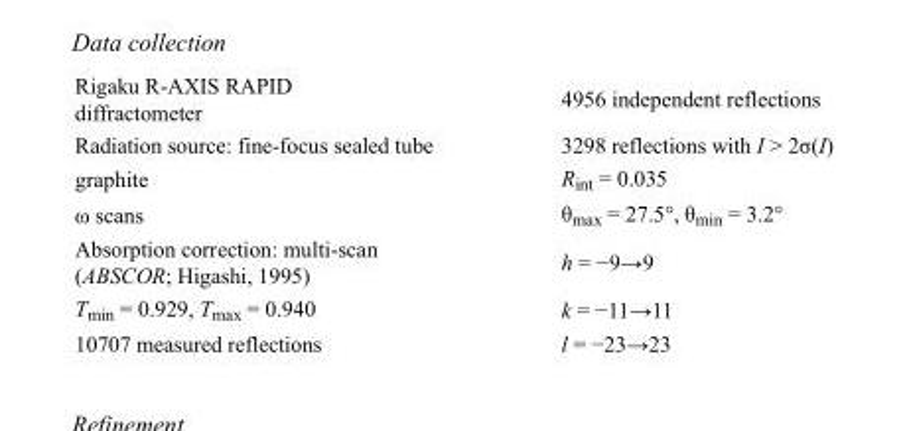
<table><tbody><tr><td>Rigaku R-AXIS RAPID diffractometer</td><td>4956 independent reflections</td></tr><tr><td>Radiation source: fine-focus sealed tube</td><td>3298 reflections with I &gt; 2σ(I)</td></tr><tr><td>graphite</td><td>R<sub>int</sub> = 0.035</td></tr><tr><td>ω scans</td><td>θ<sub>max</sub> = 27.5°, θ<sub>min</sub> = 3.2°</td></tr><tr><td>Absorption correction: multi-scan (ABSCOR; Higashi, 1995)</td><td>h = −9→9</td></tr><tr><td>T<sub>min</sub> = 0.929, T<sub>max</sub> = 0.940</td><td>k = −11→11</td></tr><tr><td>10707 measured reflections</td><td>l = −23→23</td></tr></tbody></table>